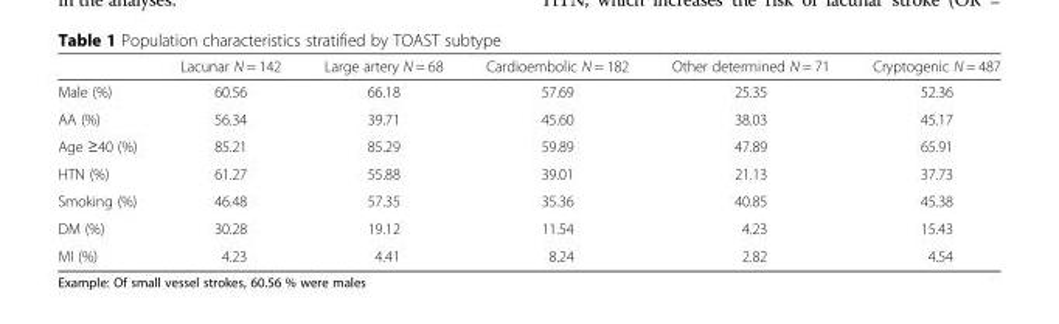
<table><thead><tr><td></td><td>Lacunar N = 142</td><td>Large artery N = 68</td><td>Cardioembolic N = 182</td><td>Other determined N = 71</td><td>Cryptogenic N = 487</td></tr></thead><tbody><tr><td>Male (%)</td><td>60.56</td><td>66.18</td><td>57.69</td><td>25.35</td><td>52.36</td></tr><tr><td>AA (%)</td><td>56.34</td><td>39.71</td><td>45.60</td><td>38.03</td><td>45.17</td></tr><tr><td>Age ≥40 (%)</td><td>85.21</td><td>85.29</td><td>59.89</td><td>47.89</td><td>65.91</td></tr><tr><td>HTN (%)</td><td>61.27</td><td>55.88</td><td>39.01</td><td>21.13</td><td>37.73</td></tr><tr><td>Smoking (%)</td><td>46.48</td><td>57.35</td><td>35.36</td><td>40.85</td><td>45.38</td></tr><tr><td>DM (%)</td><td>30.28</td><td>19.12</td><td>11.54</td><td>4.23</td><td>15.43</td></tr><tr><td>MI (%)</td><td>4.23</td><td>4.41</td><td>8.24</td><td>2.82</td><td>4.54</td></tr></tbody></table>